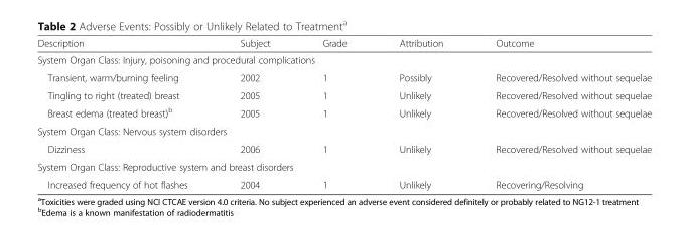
<table><thead><tr><td>Description</td><td>Subject</td><td>Grade</td><td>Attribution</td><td>Outcome</td></tr></thead><tbody><tr><td colspan="5">System Organ Class: Injury, poisoning and procedural complications</td></tr><tr><td>Transient, warm/burning feeling</td><td>2002</td><td>1</td><td>Possibly</td><td>Recovered/Resolved without sequelae</td></tr><tr><td>Tingling to right (treated) breast</td><td>2005</td><td>1</td><td>Unlikely</td><td>Recovered/Resolved without sequelae</td></tr><tr><td>Breast edema (treated breast)<sup>b</sup></td><td>2005</td><td>1</td><td>Unlikely</td><td>Recovered/Resolved without sequelae</td></tr><tr><td colspan="5">System Organ Class: Nervous system disorders</td></tr><tr><td>Dizziness</td><td>2006</td><td>1</td><td>Unlikely</td><td>Recovered/Resolved without sequelae</td></tr><tr><td colspan="5">System Organ Class: Reproductive system and breast disorders</td></tr><tr><td>Increased frequency of hot flashes</td><td>2004</td><td>1</td><td>Unlikely</td><td>Recovering/Resolving</td></tr></tbody></table>